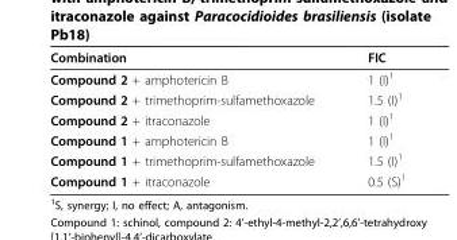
<table><thead><tr><td>Combination</td><td>FIC</td></tr></thead><tbody><tr><td>Compound 2 + amphotericin B</td><td>1 (I)<sup>1</sup></td></tr><tr><td>Compound 2 + trimethoprim-sulfamethoxazole</td><td>1.5 (I)<sup>1</sup></td></tr><tr><td>Compound 2 + itraconazole</td><td>1 (I)<sup>1</sup></td></tr><tr><td>Compound 1 + amphotericin B</td><td>1 (I)<sup>1</sup></td></tr><tr><td>Compound 1 + trimethoprim-sulfamethoxazole</td><td>1.5 (I)<sup>1</sup></td></tr><tr><td>Compound 1 + itraconazole</td><td>0.5 (S)<sup>1</sup></td></tr></tbody></table>